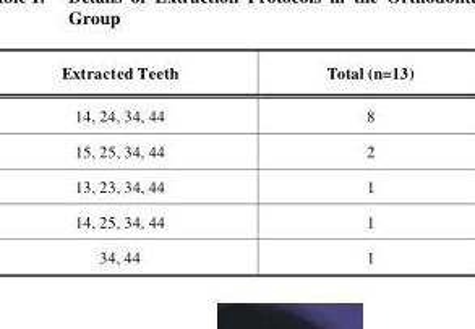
<table><thead><tr><td>Extracted Teeth</td><td>Total (n=13)</td></tr></thead><tbody><tr><td>14, 24, 34, 44</td><td>8</td></tr><tr><td>15, 25, 34, 44</td><td>2</td></tr><tr><td>13, 23, 34, 44</td><td>1</td></tr><tr><td>14, 25, 34, 44</td><td>1</td></tr><tr><td>34, 44</td><td>1</td></tr></tbody></table>